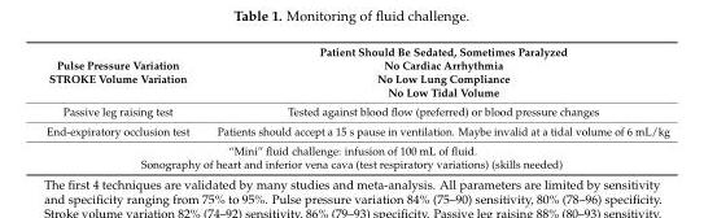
<table><thead><tr><td>Pulse Pressure Variation STROKE Volume Variation</td><td>Patient Should Be Sedated, Sometimes Paralyzed No Cardiac Arrhythmia No Low Lung Compliance No Low Tidal Volume</td></tr></thead><tbody><tr><td>Passive leg raising test</td><td>Tested against blood flow (preferred) or blood pressure changes</td></tr><tr><td>End-expiratory occlusion test</td><td>Patients should accept a 15 s pause in ventilation. Maybe invalid at a tidal volume of 6 mL/kg</td></tr><tr><td colspan="2">“Mini” fluid challenge: infusion of 100 mL of fluid. Sonography of heart and inferior vena cava (test respiratory variations) (skills needed)</td></tr></tbody></table>